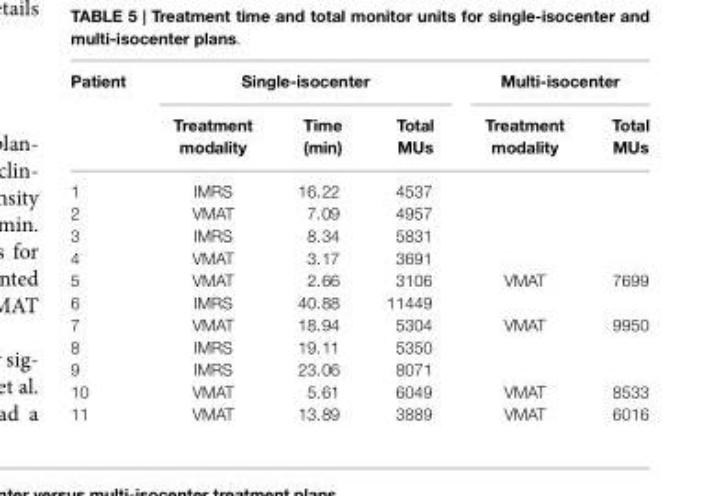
<table><thead><tr><td rowspan="2">Patient</td><td colspan="3">Single-isocenter</td><td colspan="2">Multi-isocenter</td></tr><tr><td>Treatment modality</td><td>Time (min)</td><td>Total MUs</td><td>Treatment modality</td><td>Total MUs</td></tr></thead><tbody><tr><td>1</td><td>IMRS</td><td>16.22</td><td>4537</td><td></td><td></td></tr><tr><td>2</td><td>VMAT</td><td>7.09</td><td>4957</td><td></td><td></td></tr><tr><td>3</td><td>IMRS</td><td>8.34</td><td>5831</td><td></td><td></td></tr><tr><td>4</td><td>VMAT</td><td>3.17</td><td>3691</td><td></td><td></td></tr><tr><td>5</td><td>VMAT</td><td>2.66</td><td>3106</td><td>VMAT</td><td>7699</td></tr><tr><td>6</td><td>IMRS</td><td>40.88</td><td>11449</td><td></td><td></td></tr><tr><td>7</td><td>VMAT</td><td>18.94</td><td>5304</td><td>VMAT</td><td>9950</td></tr><tr><td>8</td><td>IMRS</td><td>19.11</td><td>5350</td><td></td><td></td></tr><tr><td>9</td><td>IMRS</td><td>23.06</td><td>8071</td><td></td><td></td></tr><tr><td>10</td><td>VMAT</td><td>5.61</td><td>6049</td><td>VMAT</td><td>8533</td></tr><tr><td>11</td><td>VMAT</td><td>13.89</td><td>3889</td><td>VMAT</td><td>6016</td></tr></tbody></table>